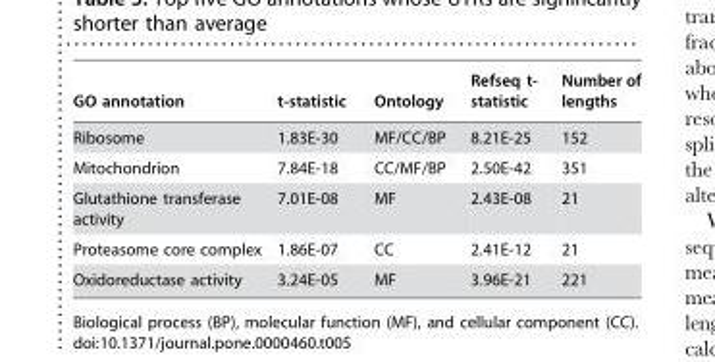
<table><thead><tr><td>GO annotation</td><td>t-statistic</td><td>Ontology</td><td>Refseq t- statistic</td><td>Number of lengths</td></tr></thead><tbody><tr><td>Ribosome</td><td>1.83E-30</td><td>MF/CC/BP</td><td>8.21E-25</td><td>152</td></tr><tr><td>Mitochondrion</td><td>7.84E-18</td><td>CC/MF/BP</td><td>2.50E-42</td><td>351</td></tr><tr><td>Glutathione transferase activity</td><td>7.01E-08</td><td>MF</td><td>2.43E-08</td><td>21</td></tr><tr><td>Proteasome core complex</td><td>1.86E-07</td><td>CC</td><td>2.41E-12</td><td>21</td></tr><tr><td>Oxidoreductase activity</td><td>3.24E-05</td><td>MF</td><td>3.96E-21</td><td>221</td></tr></tbody></table>